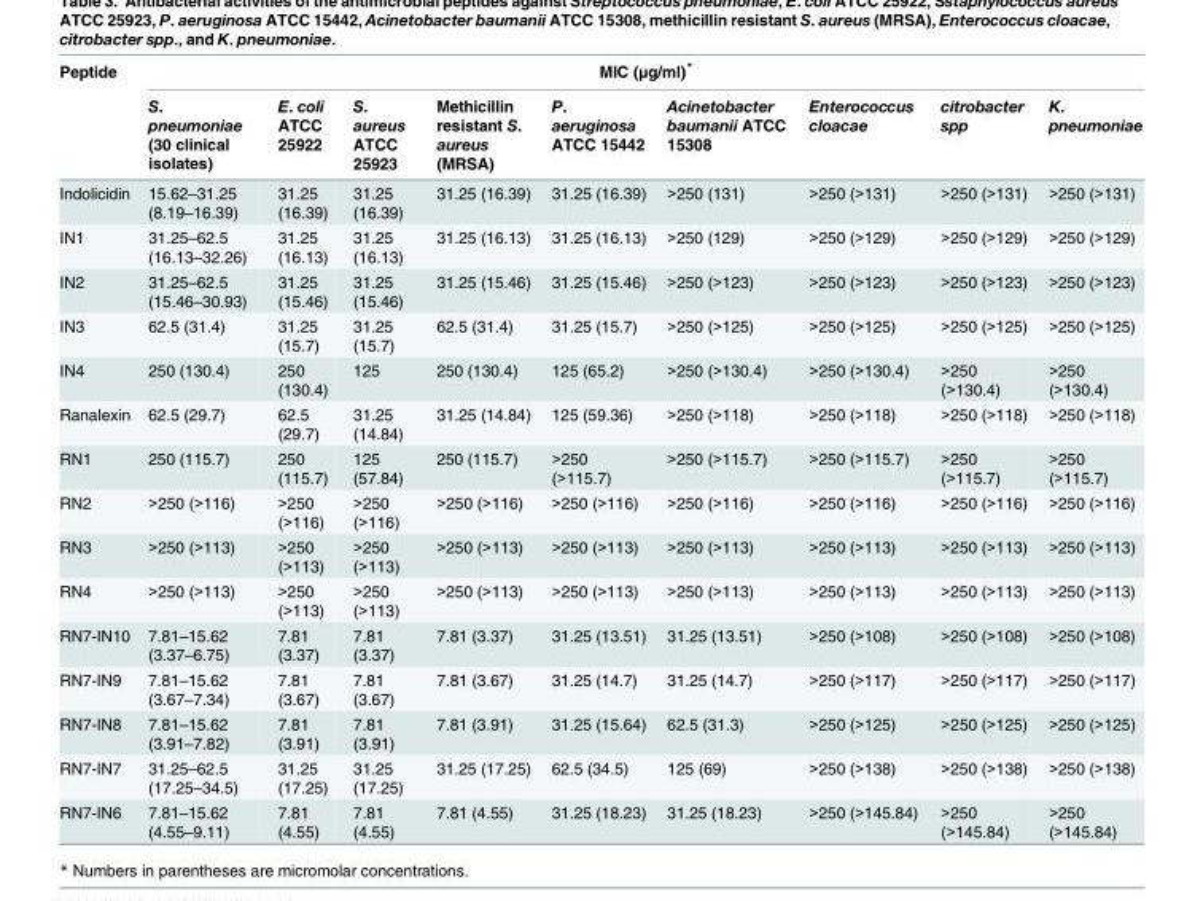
<table><thead><tr><td rowspan="2">Peptide</td><td colspan="9">MIC (μg/ml)*</td></tr><tr><td>S. pneumoniae (30 clinical isolates)</td><td>E. coli ATCC 25922</td><td>S. aureus ATCC 25923</td><td>Methicillin resistant S. aureus (MRSA)</td><td>P. aeruginosa ATCC 15442</td><td>Acinetobacter baumanii ATCC 15308</td><td>Enterococcus cloacae</td><td>citrobacter spp</td><td>K. pneumoniae</td></tr></thead><tbody><tr><td>Indolicidin</td><td>15.62–31.25 (8.19–16.39)</td><td>31.25 (16.39)</td><td>31.25 (16.39)</td><td>31.25 (16.39)</td><td>31.25 (16.39)</td><td>&gt;250 (131)</td><td>&gt;250 (&gt;131)</td><td>&gt;250 (&gt;131)</td><td>&gt;250 (&gt;131)</td></tr><tr><td>IN1</td><td>31.25–62.5 (16.13–32.26)</td><td>31.25 (16.13)</td><td>31.25 (16.13)</td><td>31.25 (16.13)</td><td>31.25 (16.13)</td><td>&gt;250 (129)</td><td>&gt;250 (&gt;129)</td><td>&gt;250 (&gt;129)</td><td>&gt;250 (&gt;129)</td></tr><tr><td>IN2</td><td>31.25–62.5 (15.46–30.93)</td><td>31.25 (15.46)</td><td>31.25 (15.46)</td><td>31.25 (15.46)</td><td>31.25 (15.46)</td><td>&gt;250 (&gt;123)</td><td>&gt;250 (&gt;123)</td><td>&gt;250 (&gt;123)</td><td>&gt;250 (&gt;123)</td></tr><tr><td>IN3</td><td>62.5 (31.4)</td><td>31.25 (15.7)</td><td>31.25 (15.7)</td><td>62.5 (31.4)</td><td>31.25 (15.7)</td><td>&gt;250 (&gt;125)</td><td>&gt;250 (&gt;125)</td><td>&gt;250 (&gt;125)</td><td>&gt;250 (&gt;125)</td></tr><tr><td>IN4</td><td>250 (130.4)</td><td>250 (130.4)</td><td>125</td><td>250 (130.4)</td><td>125 (65.2)</td><td>&gt;250 (&gt;130.4)</td><td>&gt;250 (&gt;130.4)</td><td>&gt;250 (&gt;130.4)</td><td>&gt;250 (&gt;130.4)</td></tr><tr><td>Ranalexin</td><td>62.5 (29.7)</td><td>62.5 (29.7)</td><td>31.25 (14.84)</td><td>31.25 (14.84)</td><td>125 (59.36)</td><td>&gt;250 (&gt;118)</td><td>&gt;250 (&gt;118)</td><td>&gt;250 (&gt;118)</td><td>&gt;250 (&gt;118)</td></tr><tr><td>RN1</td><td>250 (115.7)</td><td>250 (115.7)</td><td>125 (57.84)</td><td>250 (115.7)</td><td>&gt;250 (&gt;115.7)</td><td>&gt;250 (&gt;115.7)</td><td>&gt;250 (&gt;115.7)</td><td>&gt;250 (&gt;115.7)</td><td>&gt;250 (&gt;115.7)</td></tr><tr><td>RN2</td><td>&gt;250 (&gt;116)</td><td>&gt;250 (&gt;116)</td><td>&gt;250 (&gt;116)</td><td>&gt;250 (&gt;116)</td><td>&gt;250 (&gt;116)</td><td>&gt;250 (&gt;116)</td><td>&gt;250 (&gt;116)</td><td>&gt;250 (&gt;116)</td><td>&gt;250 (&gt;116)</td></tr><tr><td>RN3</td><td>&gt;250 (&gt;113)</td><td>&gt;250 (&gt;113)</td><td>&gt;250 (&gt;113)</td><td>&gt;250 (&gt;113)</td><td>&gt;250 (&gt;113)</td><td>&gt;250 (&gt;113)</td><td>&gt;250 (&gt;113)</td><td>&gt;250 (&gt;113)</td><td>&gt;250 (&gt;113)</td></tr><tr><td>RN4</td><td>&gt;250 (&gt;113)</td><td>&gt;250 (&gt;113)</td><td>&gt;250 (&gt;113)</td><td>&gt;250 (&gt;113)</td><td>&gt;250 (&gt;113)</td><td>&gt;250 (&gt;113)</td><td>&gt;250 (&gt;113)</td><td>&gt;250 (&gt;113)</td><td>&gt;250 (&gt;113)</td></tr><tr><td>RN7-IN10</td><td>7.81–15.62 (3.37–6.75)</td><td>7.81 (3.37)</td><td>7.81 (3.37)</td><td>7.81 (3.37)</td><td>31.25 (13.51)</td><td>31.25 (13.51)</td><td>&gt;250 (&gt;108)</td><td>&gt;250 (&gt;108)</td><td>&gt;250 (&gt;108)</td></tr><tr><td>RN7-IN9</td><td>7.81–15.62 (3.67–7.34)</td><td>7.81 (3.67)</td><td>7.81 (3.67)</td><td>7.81 (3.67)</td><td>31.25 (14.7)</td><td>31.25 (14.7)</td><td>&gt;250 (&gt;117)</td><td>&gt;250 (&gt;117)</td><td>&gt;250 (&gt;117)</td></tr><tr><td>RN7-IN8</td><td>7.81–15.62 (3.91–7.82)</td><td>7.81 (3.91)</td><td>7.81 (3.91)</td><td>7.81 (3.91)</td><td>31.25 (15.64)</td><td>62.5 (31.3)</td><td>&gt;250 (&gt;125)</td><td>&gt;250 (&gt;125)</td><td>&gt;250 (&gt;125)</td></tr><tr><td>RN7-IN7</td><td>31.25–62.5 (17.25–34.5)</td><td>31.25 (17.25)</td><td>31.25 (17.25)</td><td>31.25 (17.25)</td><td>62.5 (34.5)</td><td>125 (69)</td><td>&gt;250 (&gt;138)</td><td>&gt;250 (&gt;138)</td><td>&gt;250 (&gt;138)</td></tr><tr><td>RN7-IN6</td><td>7.81–15.62 (4.55–9.11)</td><td>7.81 (4.55)</td><td>7.81 (4.55)</td><td>7.81 (4.55)</td><td>31.25 (18.23)</td><td>31.25 (18.23)</td><td>&gt;250 (&gt;145.84)</td><td>&gt;250 (&gt;145.84)</td><td>&gt;250 (&gt;145.84)</td></tr></tbody></table>